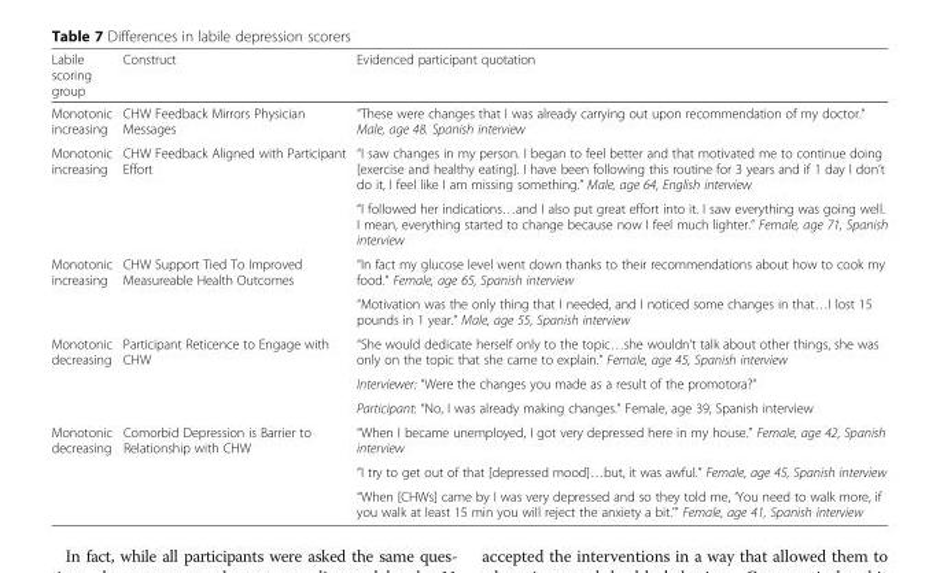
<table><thead><tr><td>Labile scoring group</td><td>Construct</td><td>Evidenced participant quotation</td></tr></thead><tbody><tr><td>Monotonic increasing</td><td>CHW Feedback Mirrors Physician Messages</td><td>“These were changes that I was already carrying out upon recommendation of my doctor.” Male, age 48. Spanish interview</td></tr><tr><td rowspan="2">Monotonic increasing</td><td rowspan="2">CHW Feedback Aligned with Participant Effort</td><td>“I saw changes in my person. I began to feel better and that motivated me to continue doing [exercise and healthy eating]. I have been following this routine for 3 years and if 1 day I don’t do it, I feel like I am missing something.” Male, age 64, English interview</td></tr><tr><td>“I followed her indications…and I also put great effort into it. I saw everything was going well. I mean, everything started to change because now I feel much lighter.” Female, age 71, Spanish interview</td></tr><tr><td rowspan="2">Monotonic increasing</td><td rowspan="2">CHW Support Tied To Improved Measureable Health Outcomes</td><td>“In fact my glucose level went down thanks to their recommendations about how to cook my food.” Female, age 65, Spanish interview</td></tr><tr><td>“Motivation was the only thing that I needed, and I noticed some changes in that…I lost 15 pounds in 1 year.” Male, age 55, Spanish interview</td></tr><tr><td rowspan="3">Monotonic decreasing</td><td rowspan="3">Participant Reticence to Engage with CHW</td><td>“She would dedicate herself only to the topic…she wouldn’t talk about other things, she was only on the topic that she came to explain.” Female, age 45, Spanish interview</td></tr><tr><td>Interviewer: “Were the changes you made as a result of the promotora?”</td></tr><tr><td>Participant: “No, I was already making changes.” Female, age 39, Spanish interview</td></tr><tr><td rowspan="3">Monotonic decreasing</td><td rowspan="3">Comorbid Depression is Barrier to Relationship with CHW</td><td>“When I became unemployed, I got very depressed here in my house.” Female, age 42, Spanish interview</td></tr><tr><td>“I try to get out of that [depressed mood]…but, it was awful.” Female, age 45, Spanish interview</td></tr><tr><td>“When [CHWs] came by I was very depressed and so they told me, ‘You need to walk more, if you walk at least 15 min you will reject the anxiety a bit.’” Female, age 41, Spanish interview</td></tr></tbody></table>